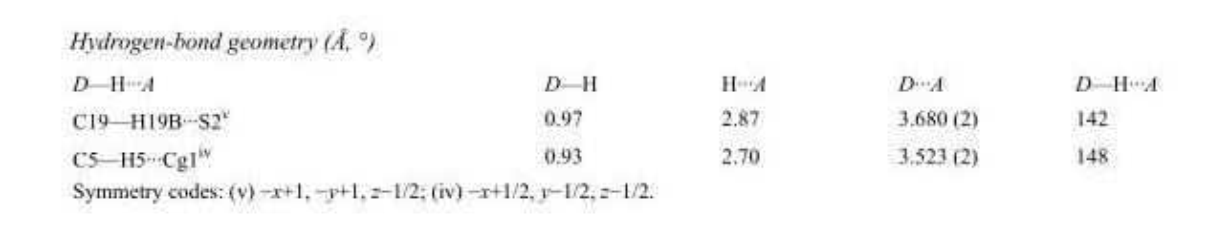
<table><tbody><tr><td>D—H···A</td><td>D—H</td><td>H···A</td><td>D···A</td><td>D—H···A</td></tr><tr><td>C19—H19B···S2<sup>v</sup></td><td>0.97</td><td>2.87</td><td>3.680 (2)</td><td>142</td></tr><tr><td>C5—H5···Cg1<sup>iv</sup></td><td>0.93</td><td>2.70</td><td>3.523 (2)</td><td>148</td></tr></tbody></table>